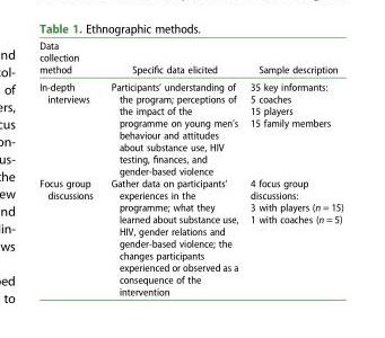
<table><thead><tr><td>Data collection method</td><td>Specific data elicited</td><td>Sample description</td></tr></thead><tbody><tr><td>In-depth interviews</td><td>Participants’ understanding of the program; perceptions of the impact of the programme on young men’s behaviour and attitudes about substance use, HIV testing, finances, and gender-based violence</td><td>35 key informants: 5 coaches 15 players 15 family members</td></tr><tr><td>Focus group discussions</td><td>Gather data on participants’ experiences in the programme; what they learned about substance use, HIV, gender relations and gender-based violence; the changes participants experienced or observed as a consequence of the intervention</td><td>4 focus group discussions: 3 with players (n = 15) 1 with coaches (n = 5)</td></tr></tbody></table>